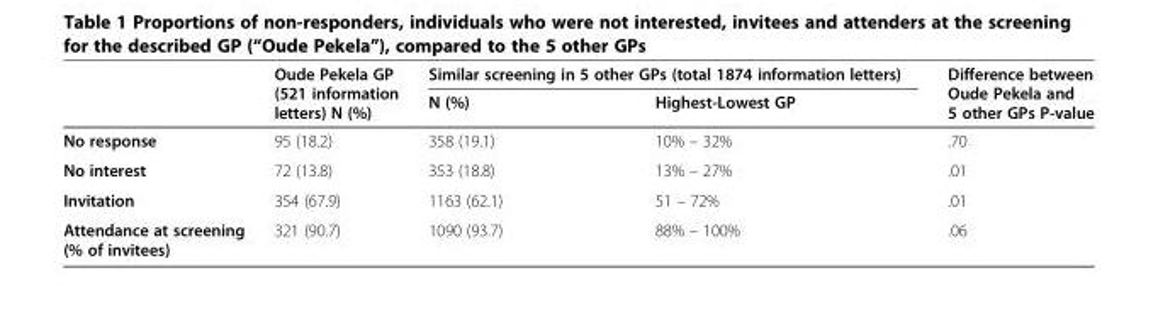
<table><thead><tr><td rowspan="2"></td><td rowspan="2">Oude Pekela GP (521 information letters) N (%)</td><td colspan="2">Similar screening in 5 other GPs (total 1874 information letters)</td><td rowspan="2">Difference between Oude Pekela and 5 other GPs P-value</td></tr><tr><td>N (%)</td><td>Highest-Lowest GP</td></tr></thead><tbody><tr><td>No response</td><td>95 (18.2)</td><td>358 (19.1)</td><td>10% – 32%</td><td>.70</td></tr><tr><td>No interest</td><td>72 (13.8)</td><td>353 (18.8)</td><td>13% – 27%</td><td>.01</td></tr><tr><td>Invitation</td><td>354 (67.9)</td><td>1163 (62.1)</td><td>51 – 72%</td><td>.01</td></tr><tr><td>Attendance at screening (% of invitees)</td><td>321 (90.7)</td><td>1090 (93.7)</td><td>88% – 100%</td><td>.06</td></tr></tbody></table>